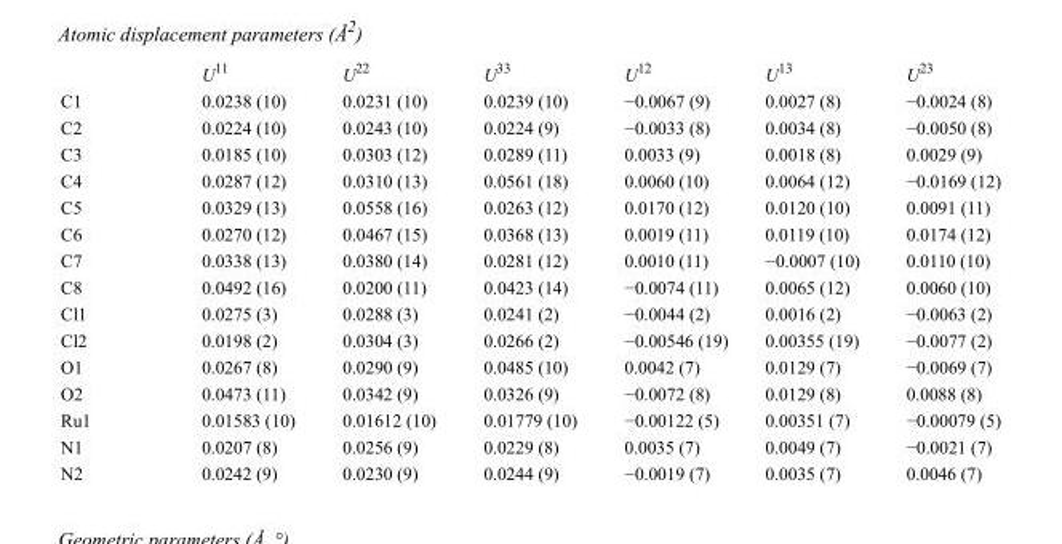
<table><thead><tr><td></td><td>U<sup>11</sup></td><td>U<sup>22</sup></td><td>U<sup>33</sup></td><td>U<sup>12</sup></td><td>U<sup>13</sup></td><td>U<sup>23</sup></td></tr></thead><tbody><tr><td>C1</td><td>0.0238 (10)</td><td>0.0231 (10)</td><td>0.0239 (10)</td><td>−0.0067 (9)</td><td>0.0027 (8)</td><td>−0.0024 (8)</td></tr><tr><td>C2</td><td>0.0224 (10)</td><td>0.0243 (10)</td><td>0.0224 (9)</td><td>−0.0033 (8)</td><td>0.0034 (8)</td><td>−0.0050 (8)</td></tr><tr><td>C3</td><td>0.0185 (10)</td><td>0.0303 (12)</td><td>0.0289 (11)</td><td>0.0033 (9)</td><td>0.0018 (8)</td><td>0.0029 (9)</td></tr><tr><td>C4</td><td>0.0287 (12)</td><td>0.0310 (13)</td><td>0.0561 (18)</td><td>0.0060 (10)</td><td>0.0064 (12)</td><td>−0.0169 (12)</td></tr><tr><td>C5</td><td>0.0329 (13)</td><td>0.0558 (16)</td><td>0.0263 (12)</td><td>0.0170 (12)</td><td>0.0120 (10)</td><td>0.0091 (11)</td></tr><tr><td>C6</td><td>0.0270 (12)</td><td>0.0467 (15)</td><td>0.0368 (13)</td><td>0.0019 (11)</td><td>0.0119 (10)</td><td>0.0174 (12)</td></tr><tr><td>C7</td><td>0.0338 (13)</td><td>0.0380 (14)</td><td>0.0281 (12)</td><td>0.0010 (11)</td><td>−0.0007 (10)</td><td>0.0110 (10)</td></tr><tr><td>C8</td><td>0.0492 (16)</td><td>0.0200 (11)</td><td>0.0423 (14)</td><td>−0.0074 (11)</td><td>0.0065 (12)</td><td>0.0060 (10)</td></tr><tr><td>Cl1</td><td>0.0275 (3)</td><td>0.0288 (3)</td><td>0.0241 (2)</td><td>−0.0044 (2)</td><td>0.0016 (2)</td><td>−0.0063 (2)</td></tr><tr><td>Cl2</td><td>0.0198 (2)</td><td>0.0304 (3)</td><td>0.0266 (2)</td><td>−0.00546 (19)</td><td>0.00355 (19)</td><td>−0.0077 (2)</td></tr><tr><td>O1</td><td>0.0267 (8)</td><td>0.0290 (9)</td><td>0.0485 (10)</td><td>0.0042 (7)</td><td>0.0129 (7)</td><td>−0.0069 (7)</td></tr><tr><td>O2</td><td>0.0473 (11)</td><td>0.0342 (9)</td><td>0.0326 (9)</td><td>−0.0072 (8)</td><td>0.0129 (8)</td><td>0.0088 (8)</td></tr><tr><td>Ru1</td><td>0.01583 (10)</td><td>0.01612 (10)</td><td>0.01779 (10)</td><td>−0.00122 (5)</td><td>0.00351 (7)</td><td>−0.00079 (5)</td></tr><tr><td>N1</td><td>0.0207 (8)</td><td>0.0256 (9)</td><td>0.0229 (8)</td><td>0.0035 (7)</td><td>0.0049 (7)</td><td>−0.0021 (7)</td></tr><tr><td>N2</td><td>0.0242 (9)</td><td>0.0230 (9)</td><td>0.0244 (9)</td><td>−0.0019 (7)</td><td>0.0035 (7)</td><td>0.0046 (7)</td></tr></tbody></table>